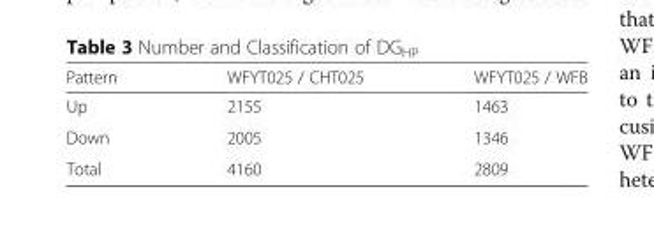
<table><thead><tr><td>Pattern</td><td>WFYT025 / CHT025</td><td>WFYT025 / WFB</td></tr></thead><tbody><tr><td>Up</td><td>2155</td><td>1463</td></tr><tr><td>Down</td><td>2005</td><td>1346</td></tr><tr><td>Total</td><td>4160</td><td>2809</td></tr></tbody></table>